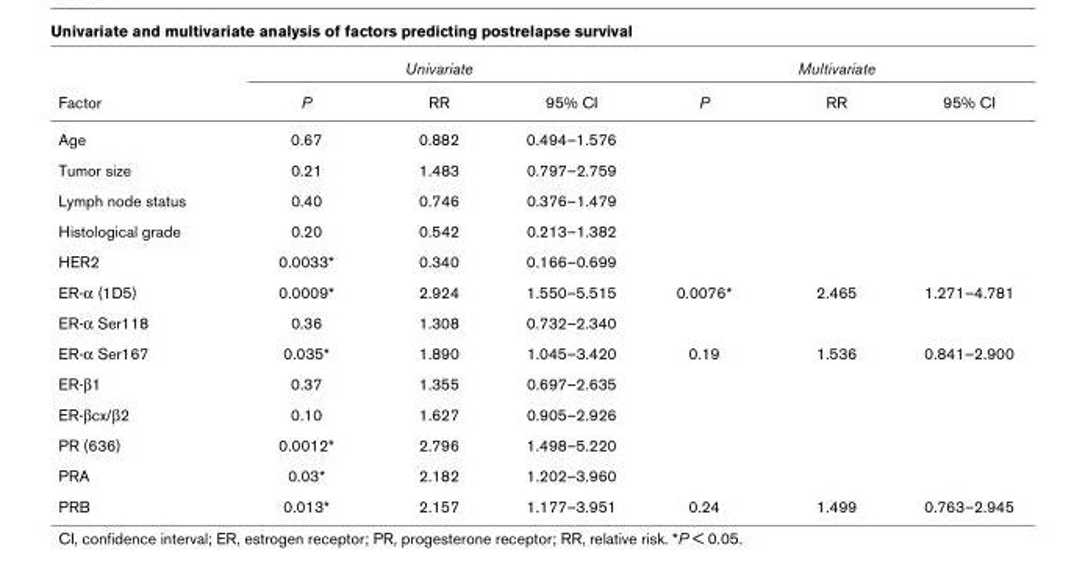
<table><thead><tr><td rowspan="2">Factor</td><td colspan="3">Univariate</td><td colspan="3">Multivariate</td></tr><tr><td>P</td><td>RR</td><td>95% CI</td><td>P</td><td>RR</td><td>95% CI</td></tr></thead><tbody><tr><td>Age</td><td>0.67</td><td>0.882</td><td>0.494–1.576</td><td></td><td></td><td></td></tr><tr><td>Tumor size</td><td>0.21</td><td>1.483</td><td>0.797–2.759</td><td></td><td></td><td></td></tr><tr><td>Lymph node status</td><td>0.40</td><td>0.746</td><td>0.376–1.479</td><td></td><td></td><td></td></tr><tr><td>Histological grade</td><td>0.20</td><td>0.542</td><td>0.213–1.382</td><td></td><td></td><td></td></tr><tr><td>HER2</td><td>0.0033*</td><td>0.340</td><td>0.166–0.699</td><td></td><td></td><td></td></tr><tr><td>ER-α (1D5)</td><td>0.0009*</td><td>2.924</td><td>1.550–5.515</td><td>0.0076*</td><td>2.465</td><td>1.271–4.781</td></tr><tr><td>ER-α Ser118</td><td>0.36</td><td>1.308</td><td>0.732–2.340</td><td></td><td></td><td></td></tr><tr><td>ER-α Ser167</td><td>0.035*</td><td>1.890</td><td>1.045–3.420</td><td>0.19</td><td>1.536</td><td>0.841–2.900</td></tr><tr><td>ER-β1</td><td>0.37</td><td>1.355</td><td>0.697–2.635</td><td></td><td></td><td></td></tr><tr><td>ER-βcx/β2</td><td>0.10</td><td>1.627</td><td>0.905–2.926</td><td></td><td></td><td></td></tr><tr><td>PR (636)</td><td>0.0012*</td><td>2.796</td><td>1.498–5.220</td><td></td><td></td><td></td></tr><tr><td>PRA</td><td>0.03*</td><td>2.182</td><td>1.202–3.960</td><td></td><td></td><td></td></tr><tr><td>PRB</td><td>0.013*</td><td>2.157</td><td>1.177–3.951</td><td>0.24</td><td>1.499</td><td>0.763–2.945</td></tr></tbody></table>